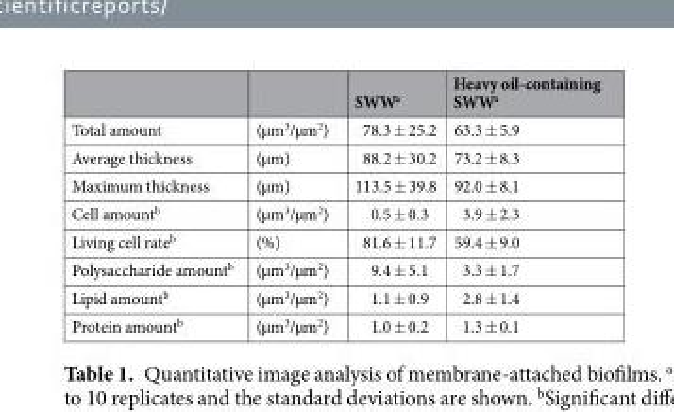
<table><thead><tr><td></td><td></td><td>SWW<sup>a</sup></td><td>Heavy oil-containing SWW<sup>a</sup></td></tr></thead><tbody><tr><td>Total amount</td><td>(µm<sup>3</sup>/µm<sup>2</sup>)</td><td>78.3 ± 25.2</td><td>63.3 ± 5.9</td></tr><tr><td>Average thickness</td><td>(µm)</td><td>88.2 ± 30.2</td><td>73.2 ± 8.3</td></tr><tr><td>Maximum thickness</td><td>(µm)</td><td>113.5 ± 39.8</td><td>92.0 ± 8.1</td></tr><tr><td>Cell amount<sup>b</sup></td><td>(µm<sup>3</sup>/µm<sup>2</sup>)</td><td>0.5 ± 0.3</td><td>3.9 ± 2.3</td></tr><tr><td>Living cell rate<sup>b</sup></td><td>(%)</td><td>81.6 ± 11.7</td><td>59.4 ± 9.0</td></tr><tr><td>Polysaccharide amount<sup>b</sup></td><td>(µm<sup>3</sup>/µm<sup>2</sup>)</td><td>9.4 ± 5.1</td><td>3.3 ± 1.7</td></tr><tr><td>Lipid amount<sup>b</sup></td><td>(µm<sup>3</sup>/µm<sup>2</sup>)</td><td>1.1 ± 0.9</td><td>2.8 ± 1.4</td></tr><tr><td>Protein amount<sup>b</sup></td><td>(µm<sup>3</sup>/µm<sup>2</sup>)</td><td>1.0 ± 0.2</td><td>1.3 ± 0.1</td></tr></tbody></table>